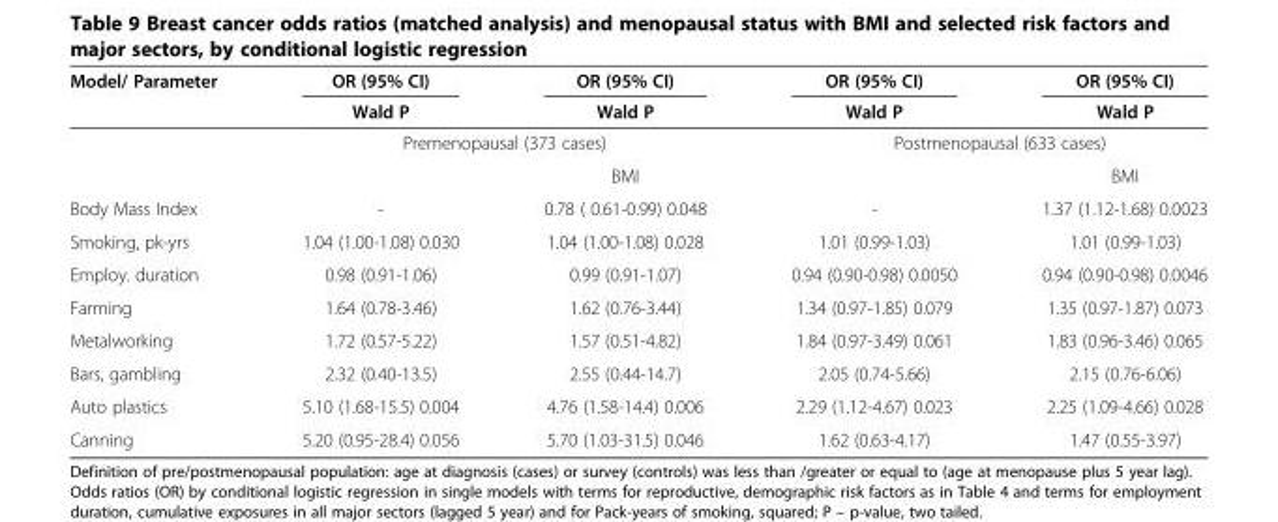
<table><thead><tr><td rowspan="2">Model/ Parameter</td><td rowspan="2">OR (95% CI) Wald P</td><td rowspan="2">OR (95% CI) Wald P</td><td rowspan="2">OR (95% CI) Wald P</td><td rowspan="2">OR (95% CI) Wald P</td></tr><tr></tr></thead><tbody><tr><td></td><td colspan="2">Premenopausal (373 cases)</td><td colspan="2">Postmenopausal (633 cases)</td></tr><tr><td></td><td></td><td>BMI</td><td></td><td>BMI</td></tr><tr><td>Body Mass Index</td><td>-</td><td>0.78 ( 0.61-0.99) 0.048</td><td>-</td><td>1.37 (1.12-1.68) 0.0023</td></tr><tr><td>Smoking, pk-yrs</td><td>1.04 (1.00-1.08) 0.030</td><td>1.04 (1.00-1.08) 0.028</td><td>1.01 (0.99-1.03)</td><td>1.01 (0.99-1.03)</td></tr><tr><td>Employ. duration</td><td>0.98 (0.91-1.06)</td><td>0.99 (0.91-1.07)</td><td>0.94 (0.90-0.98) 0.0050</td><td>0.94 (0.90-0.98) 0.0046</td></tr><tr><td>Farming</td><td>1.64 (0.78-3.46)</td><td>1.62 (0.76-3.44)</td><td>1.34 (0.97-1.85) 0.079</td><td>1.35 (0.97-1.87) 0.073</td></tr><tr><td>Metalworking</td><td>1.72 (0.57-5.22)</td><td>1.57 (0.51-4.82)</td><td>1.84 (0.97-3.49) 0.061</td><td>1.83 (0.96-3.46) 0.065</td></tr><tr><td>Bars, gambling</td><td>2.32 (0.40-13.5)</td><td>2.55 (0.44-14.7)</td><td>2.05 (0.74-5.66)</td><td>2.15 (0.76-6.06)</td></tr><tr><td>Auto plastics</td><td>5.10 (1.68-15.5) 0.004</td><td>4.76 (1.58-14.4) 0.006</td><td>2.29 (1.12-4.67) 0.023</td><td>2.25 (1.09-4.66) 0.028</td></tr><tr><td>Canning</td><td>5.20 (0.95-28.4) 0.056</td><td>5.70 (1.03-31.5) 0.046</td><td>1.62 (0.63-4.17)</td><td>1.47 (0.55-3.97)</td></tr></tbody></table>